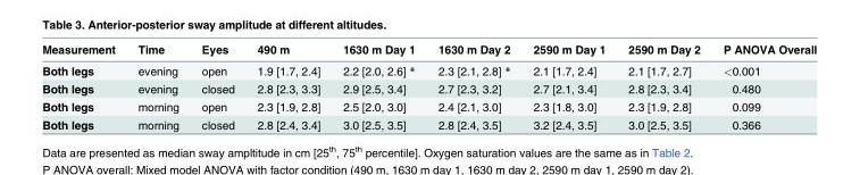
<table><thead><tr><td>Measurement</td><td>Time</td><td>Eyes</td><td>490 m</td><td>1630 m Day 1</td><td>1630 m Day 2</td><td>2590 m Day 1</td><td>2590 m Day 2</td><td>P ANOVA Overall</td></tr></thead><tbody><tr><td>Both legs</td><td>evening</td><td>open</td><td>1.9 [1.7, 2.4]</td><td>2.2 [2.0, 2.6] *</td><td>2.3 [2.1, 2.8] *</td><td>2.1 [1.7, 2.4]</td><td>2.1 [1.7, 2.7]</td><td>&lt;0.001</td></tr><tr><td>Both legs</td><td>evening</td><td>closed</td><td>2.8 [2.3, 3.3]</td><td>2.9 [2.5, 3.4]</td><td>2.7 [2.3, 3.2]</td><td>2.7 [2.1, 3.4]</td><td>2.8 [2.3, 3.4]</td><td>0.480</td></tr><tr><td>Both legs</td><td>morning</td><td>open</td><td>2.3 [1.9, 2.8]</td><td>2.5 [2.0, 3.0]</td><td>2.4 [2.1, 3.0]</td><td>2.3 [1.8, 3.0]</td><td>2.3 [1.9, 2.8]</td><td>0.099</td></tr><tr><td>Both legs</td><td>morning</td><td>closed</td><td>2.8 [2.4, 3.4]</td><td>3.0 [2.5, 3.5]</td><td>2.8 [2.4, 3.5]</td><td>3.2 [2.4, 3.5]</td><td>3.0 [2.5, 3.5]</td><td>0.366</td></tr></tbody></table>